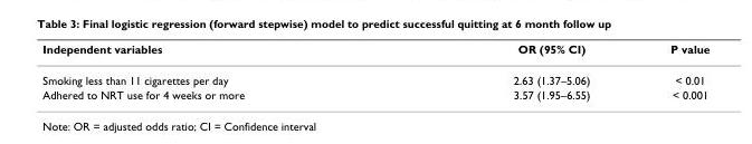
<table><thead><tr><td>Independent variables</td><td>OR (95% CI)</td><td>P value</td></tr></thead><tbody><tr><td>Smoking less than 11 cigarettes per day</td><td>2.63 (1.37–5.06)</td><td>&lt; 0.01</td></tr><tr><td>Adhered to NRT use for 4 weeks or more</td><td>3.57 (1.95–6.55)</td><td>&lt; 0.001</td></tr></tbody></table>